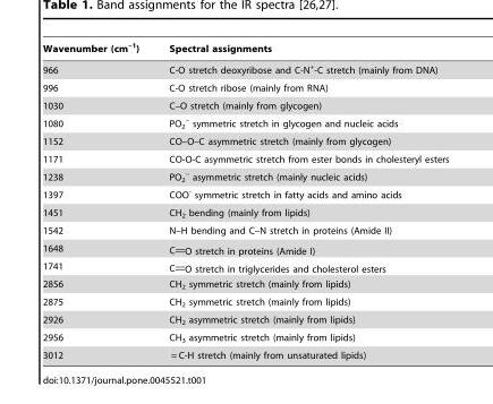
<table><thead><tr><td>Wavenumber (cm<sup>–1</sup>)</td><td>Spectral assignments</td></tr></thead><tbody><tr><td>966</td><td>C-O stretch deoxyribose and C-N<sup>+</sup>-C stretch (mainly from DNA)</td></tr><tr><td>996</td><td>C-O stretch ribose (mainly from RNA)</td></tr><tr><td>1030</td><td>C–O stretch (mainly from glycogen)</td></tr><tr><td>1080</td><td>PO<sub>2</sub> <sup>–</sup> symmetric stretch in glycogen and nucleic acids</td></tr><tr><td>1152</td><td>CO–O–C asymmetric stretch (mainly from glycogen)</td></tr><tr><td>1171</td><td>CO-O-C asymmetric stretch from ester bonds in cholesteryl esters</td></tr><tr><td>1238</td><td>PO<sub>2</sub> <sup>–</sup> asymmetric stretch (mainly nucleic acids)</td></tr><tr><td>1397</td><td>COO<sup>-</sup> symmetric stretch in fatty acids and amino acids</td></tr><tr><td>1451</td><td>CH<sub>2</sub> bending (mainly from lipids)</td></tr><tr><td>1542</td><td>N–H bending and C–N stretch in proteins (Amide II)</td></tr><tr><td>1648</td><td>C— —O stretch in proteins (Amide I)</td></tr><tr><td>1741</td><td>C— —O stretch in triglycerides and cholesterol esters</td></tr><tr><td>2856</td><td>CH<sub>2</sub> symmetric stretch (mainly from lipids)</td></tr><tr><td>2875</td><td>CH<sub>2</sub> symmetric stretch (mainly from lipids)</td></tr><tr><td>2926</td><td>CH<sub>2</sub> asymmetric stretch (mainly from lipids)</td></tr><tr><td>2956</td><td>CH<sub>3</sub> asymmetric stretch (mainly from lipids)</td></tr><tr><td>3012</td><td>= C-H stretch (mainly from unsaturated lipids)</td></tr></tbody></table>